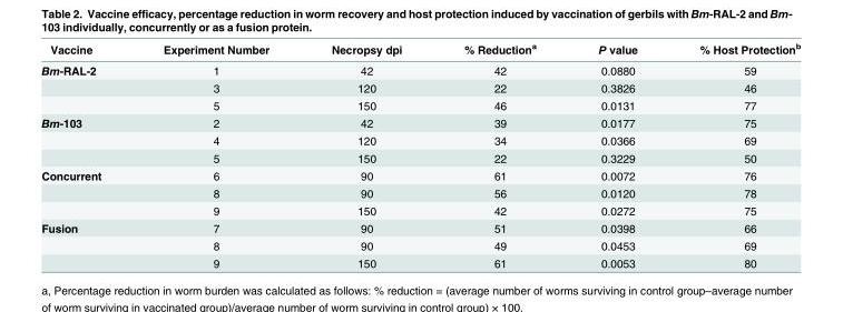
<table><thead><tr><td>Vaccine</td><td>Experiment Number</td><td>Necropsy dpi</td><td>% Reduction<sup>a</sup></td><td>P value</td><td>% Host Protection<sup>b</sup></td></tr></thead><tbody><tr><td rowspan="3">Bm-RAL-2</td><td>1</td><td>42</td><td>42</td><td>0.0880</td><td>59</td></tr><tr><td>3</td><td>120</td><td>22</td><td>0.3826</td><td>46</td></tr><tr><td>5</td><td>150</td><td>46</td><td>0.0131</td><td>77</td></tr><tr><td rowspan="3">Bm-103</td><td>2</td><td>42</td><td>39</td><td>0.0177</td><td>75</td></tr><tr><td>4</td><td>120</td><td>34</td><td>0.0366</td><td>69</td></tr><tr><td>5</td><td>150</td><td>22</td><td>0.3229</td><td>50</td></tr><tr><td rowspan="3">Concurrent</td><td>6</td><td>90</td><td>61</td><td>0.0072</td><td>76</td></tr><tr><td>8</td><td>90</td><td>56</td><td>0.0120</td><td>78</td></tr><tr><td>9</td><td>150</td><td>42</td><td>0.0272</td><td>75</td></tr><tr><td rowspan="3">Fusion</td><td>7</td><td>90</td><td>51</td><td>0.0398</td><td>66</td></tr><tr><td>8</td><td>90</td><td>49</td><td>0.0453</td><td>69</td></tr><tr><td>9</td><td>150</td><td>61</td><td>0.0053</td><td>80</td></tr></tbody></table>